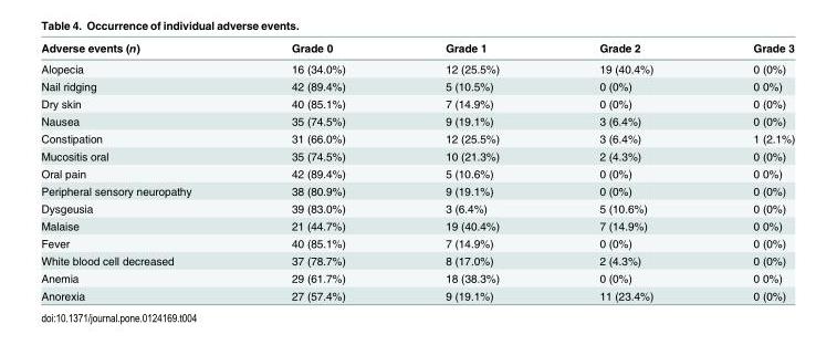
<table><thead><tr><td>Adverse events (n)</td><td>Grade 0</td><td>Grade 1</td><td>Grade 2</td><td>Grade 3</td></tr></thead><tbody><tr><td>Alopecia</td><td>16 (34.0%)</td><td>12 (25.5%)</td><td>19 (40.4%)</td><td>0 (0%)</td></tr><tr><td>Nail ridging</td><td>42 (89.4%)</td><td>5 (10.5%)</td><td>0 (0%)</td><td>0 0%)</td></tr><tr><td>Dry skin</td><td>40 (85.1%)</td><td>7 (14.9%)</td><td>0 (0%)</td><td>0 (0%)</td></tr><tr><td>Nausea</td><td>35 (74.5%)</td><td>9 (19.1%)</td><td>3 (6.4%)</td><td>0 (0%)</td></tr><tr><td>Constipation</td><td>31 (66.0%)</td><td>12 (25.5%)</td><td>3 (6.4%)</td><td>1 (2.1%)</td></tr><tr><td>Mucositis oral</td><td>35 (74.5%)</td><td>10 (21.3%)</td><td>2 (4.3%)</td><td>0 (0%)</td></tr><tr><td>Oral pain</td><td>42 (89.4%)</td><td>5 (10.6%)</td><td>0 (0%)</td><td>0 0%)</td></tr><tr><td>Peripheral sensory neuropathy</td><td>38 (80.9%)</td><td>9 (19.1%)</td><td>0 (0%)</td><td>0 (0%)</td></tr><tr><td>Dysgeusia</td><td>39 (83.0%)</td><td>3 (6.4%)</td><td>5 (10.6%)</td><td>0 (0%)</td></tr><tr><td>Malaise</td><td>21 (44.7%)</td><td>19 (40.4%)</td><td>7 (14.9%)</td><td>0 0%)</td></tr><tr><td>Fever</td><td>40 (85.1%)</td><td>7 (14.9%)</td><td>0 (0%)</td><td>0 (0%)</td></tr><tr><td>White blood cell decreased</td><td>37 (78.7%)</td><td>8 (17.0%)</td><td>2 (4.3%)</td><td>0 (0%)</td></tr><tr><td>Anemia</td><td>29 (61.7%)</td><td>18 (38.3%)</td><td>0 (0%)</td><td>0 0%)</td></tr><tr><td>Anorexia</td><td>27 (57.4%)</td><td>9 (19.1%)</td><td>11 (23.4%)</td><td>0 (0%)</td></tr></tbody></table>